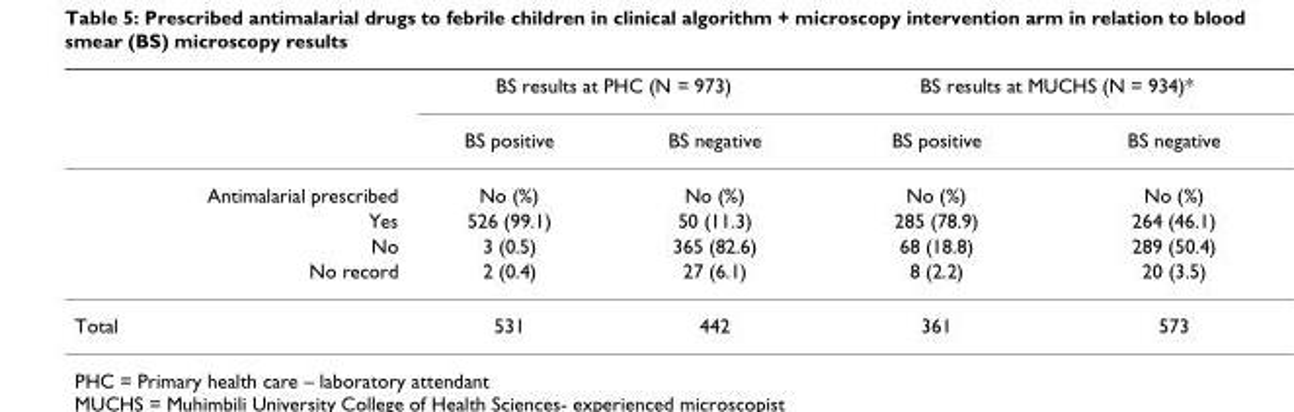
<table><thead><tr><td rowspan="2"></td><td colspan="2">BS results at PHC (N = 973)</td><td colspan="2">BS results at MUCHS (N = 934)*</td></tr><tr><td>BS positive</td><td>BS negative</td><td>BS positive</td><td>BS negative</td></tr></thead><tbody><tr><td>Antimalarial prescribed</td><td>No (%)</td><td>No (%)</td><td>No (%)</td><td>No (%)</td></tr><tr><td>Yes</td><td>526 (99.1)</td><td>50 (11.3)</td><td>285 (78.9)</td><td>264 (46.1)</td></tr><tr><td>No</td><td>3 (0.5)</td><td>365 (82.6)</td><td>68 (18.8)</td><td>289 (50.4)</td></tr><tr><td>No record</td><td>2 (0.4)</td><td>27 (6.1)</td><td>8 (2.2)</td><td>20 (3.5)</td></tr><tr><td>Total</td><td>531</td><td>442</td><td>361</td><td>573</td></tr></tbody></table>